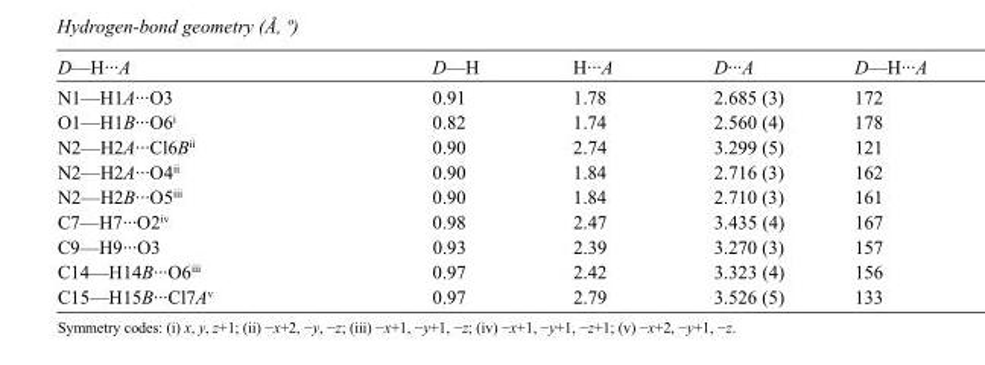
<table><tbody><tr><td>D—H···A</td><td>D—H</td><td>H···A</td><td>D···A</td><td>D—H···A</td></tr><tr><td>N1—H1A···O3</td><td>0.91</td><td>1.78</td><td>2.685 (3)</td><td>172</td></tr><tr><td>O1—H1B···O6<sup>i</sup></td><td>0.82</td><td>1.74</td><td>2.560 (4)</td><td>178</td></tr><tr><td>N2—H2A···Cl6B<sup>ii</sup></td><td>0.90</td><td>2.74</td><td>3.299 (5)</td><td>121</td></tr><tr><td>N2—H2A···O4<sup>ii</sup></td><td>0.90</td><td>1.84</td><td>2.716 (3)</td><td>162</td></tr><tr><td>N2—H2B···O5<sup>iii</sup></td><td>0.90</td><td>1.84</td><td>2.710 (3)</td><td>161</td></tr><tr><td>C7—H7···O2<sup>iv</sup></td><td>0.98</td><td>2.47</td><td>3.435 (4)</td><td>167</td></tr><tr><td>C9—H9···O3</td><td>0.93</td><td>2.39</td><td>3.270 (3)</td><td>157</td></tr><tr><td>C14—H14B···O6<sup>iii</sup></td><td>0.97</td><td>2.42</td><td>3.323 (4)</td><td>156</td></tr><tr><td>C15—H15B···Cl7A<sup>v</sup></td><td>0.97</td><td>2.79</td><td>3.526 (5)</td><td>133</td></tr></tbody></table>